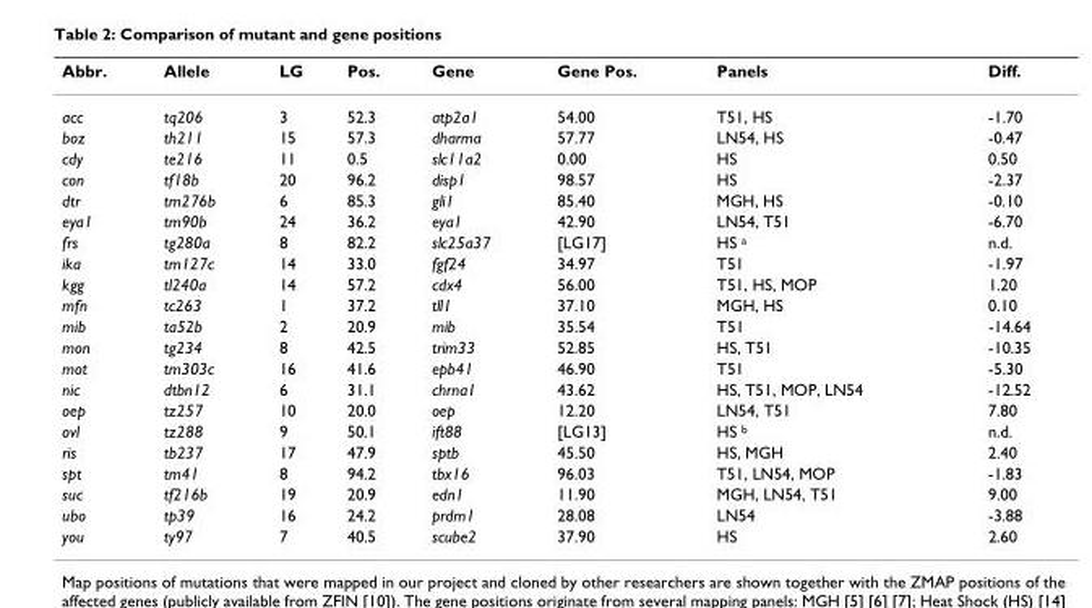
<table><thead><tr><td>Abbr.</td><td>Allele</td><td>LG</td><td>Pos.</td><td>Gene</td><td>Gene Pos.</td><td>Panels</td><td>Diff.</td></tr></thead><tbody><tr><td>acc</td><td>tq206</td><td>3</td><td>52.3</td><td>atp2a1</td><td>54.00</td><td>T51, HS</td><td>-1.70</td></tr><tr><td>boz</td><td>th211</td><td>15</td><td>57.3</td><td>dharma</td><td>57.77</td><td>LN54, HS</td><td>-0.47</td></tr><tr><td>cdy</td><td>te216</td><td>11</td><td>0.5</td><td>slc11a2</td><td>0.00</td><td>HS</td><td>0.50</td></tr><tr><td>con</td><td>tf18b</td><td>20</td><td>96.2</td><td>disp1</td><td>98.57</td><td>HS</td><td>-2.37</td></tr><tr><td>dtr</td><td>tm276b</td><td>6</td><td>85.3</td><td>gli1</td><td>85.40</td><td>MGH, HS</td><td>-0.10</td></tr><tr><td>eya1</td><td>tm90b</td><td>24</td><td>36.2</td><td>eya1</td><td>42.90</td><td>LN54, T51</td><td>-6.70</td></tr><tr><td>frs</td><td>tg280a</td><td>8</td><td>82.2</td><td>slc25a37</td><td>[LG17]</td><td>HS a</td><td>n.d.</td></tr><tr><td>ika</td><td>tm127c</td><td>14</td><td>33.0</td><td>fgf24</td><td>34.97</td><td>T51</td><td>-1.97</td></tr><tr><td>kgg</td><td>tl240a</td><td>14</td><td>57.2</td><td>cdx4</td><td>56.00</td><td>T51, HS, MOP</td><td>1.20</td></tr><tr><td>mfn</td><td>tc263</td><td>1</td><td>37.2</td><td>tll1</td><td>37.10</td><td>MGH, HS</td><td>0.10</td></tr><tr><td>mib</td><td>ta52b</td><td>2</td><td>20.9</td><td>mib</td><td>35.54</td><td>T51</td><td>-14.64</td></tr><tr><td>mon</td><td>tg234</td><td>8</td><td>42.5</td><td>trim33</td><td>52.85</td><td>HS, T51</td><td>-10.35</td></tr><tr><td>mot</td><td>tm303c</td><td>16</td><td>41.6</td><td>epb41</td><td>46.90</td><td>T51</td><td>-5.30</td></tr><tr><td>nic</td><td>dtbn12</td><td>6</td><td>31.1</td><td>chrna1</td><td>43.62</td><td>HS, T51, MOP, LN54</td><td>-12.52</td></tr><tr><td>oep</td><td>tz257</td><td>10</td><td>20.0</td><td>oep</td><td>12.20</td><td>LN54, T51</td><td>7.80</td></tr><tr><td>ovl</td><td>tz288</td><td>9</td><td>50.1</td><td>ift88</td><td>[LG13]</td><td>HS b</td><td>n.d.</td></tr><tr><td>ris</td><td>tb237</td><td>17</td><td>47.9</td><td>sptb</td><td>45.50</td><td>HS, MGH</td><td>2.40</td></tr><tr><td>spt</td><td>tm41</td><td>8</td><td>94.2</td><td>tbx16</td><td>96.03</td><td>T51, LN54, MOP</td><td>-1.83</td></tr><tr><td>suc</td><td>tf216b</td><td>19</td><td>20.9</td><td>edn1</td><td>11.90</td><td>MGH, LN54, T51</td><td>9.00</td></tr><tr><td>ubo</td><td>tp39</td><td>16</td><td>24.2</td><td>prdm1</td><td>28.08</td><td>LN54</td><td>-3.88</td></tr><tr><td>you</td><td>ty97</td><td>7</td><td>40.5</td><td>scube2</td><td>37.90</td><td>HS</td><td>2.60</td></tr></tbody></table>